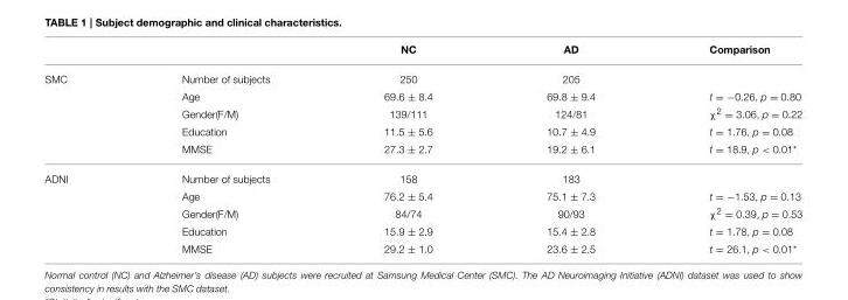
<table><thead><tr><td></td><td></td><td>NC</td><td>AD</td><td>Comparison</td></tr></thead><tbody><tr><td rowspan="5">SMC</td><td>Number of subjects</td><td>250</td><td>205</td><td></td></tr><tr><td>Age</td><td>69.6 ± 8.4</td><td>69.8 ± 9.4</td><td>t = −0.26, p = 0.80</td></tr><tr><td>Gender(F/M)</td><td>139/111</td><td>124/81</td><td>χ<sup>2</sup> = 3.06, p = 0.22</td></tr><tr><td>Education</td><td>11.5 ± 5.6</td><td>10.7 ± 4.9</td><td>t = 1.76, p = 0.08</td></tr><tr><td>MMSE</td><td>27.3 ± 2.7</td><td>19.2 ± 6.1</td><td>t = 18.9, p &lt; 0.01*</td></tr><tr><td rowspan="5">ADNI</td><td>Number of subjects</td><td>158</td><td>183</td><td></td></tr><tr><td>Age</td><td>76.2 ± 5.4</td><td>75.1 ± 7.3</td><td>t = −1.53, p = 0.13</td></tr><tr><td>Gender(F/M)</td><td>84/74</td><td>90/93</td><td>χ<sup>2</sup> = 0.39, p = 0.53</td></tr><tr><td>Education</td><td>15.9 ± 2.9</td><td>15.4 ± 2.8</td><td>t = 1.78, p = 0.08</td></tr><tr><td>MMSE</td><td>29.2 ± 1.0</td><td>23.6 ± 2.5</td><td>t = 26.1, p &lt; 0.01*</td></tr></tbody></table>